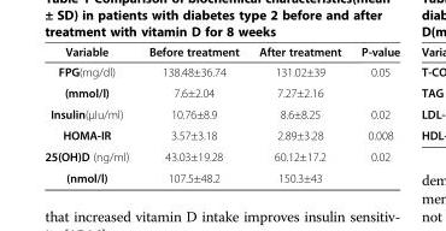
<table><thead><tr><td>Variable</td><td>Before treatment</td><td>After treatment</td><td>P-value</td></tr></thead><tbody><tr><td>FPG(mg/dl)</td><td>138.48±36.74</td><td>131.02±39</td><td>0.05</td></tr><tr><td>(mmol/l)</td><td>7.6±2.04</td><td>7.27±2.16</td><td></td></tr><tr><td>Insulin(μIu/ml)</td><td>10.76±8.9</td><td>8.6±8.25</td><td>0.02</td></tr><tr><td>HOMA-IR</td><td>3.57±3.18</td><td>2.89±3.28</td><td>0.008</td></tr><tr><td>25(OH)D (ng/ml)</td><td>43.03±19.28</td><td>60.12±17.2</td><td>0.02</td></tr><tr><td>(nmol/l)</td><td>107.5±48.2</td><td>150.3±43</td><td></td></tr></tbody></table>